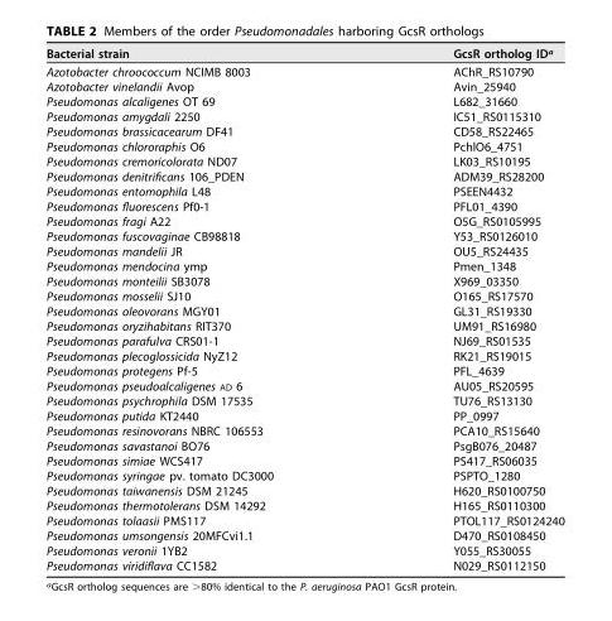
<table><thead><tr><td>Bacterial strain</td><td>GcsR ortholog ID<sup>a</sup></td></tr></thead><tbody><tr><td>Azotobacter chroococcum NCIMB 8003</td><td>AChR_RS10790</td></tr><tr><td>Azotobacter vinelandii Avop</td><td>Avin_25940</td></tr><tr><td>Pseudomonas alcaligenes OT 69</td><td>L682_31660</td></tr><tr><td>Pseudomonas amygdali 2250</td><td>IC51_RS0115310</td></tr><tr><td>Pseudomonas brassicacearum DF41</td><td>CD58_RS22465</td></tr><tr><td>Pseudomonas chlororaphis O6</td><td>PchlO6_4751</td></tr><tr><td>Pseudomonas cremoricolorata ND07</td><td>LK03_RS10195</td></tr><tr><td>Pseudomonas denitrificans 106_PDEN</td><td>ADM39_RS28200</td></tr><tr><td>Pseudomonas entomophila L48</td><td>PSEEN4432</td></tr><tr><td>Pseudomonas fluorescens Pf0-1</td><td>PFL01_4390</td></tr><tr><td>Pseudomonas fragi A22</td><td>O5G_RS0105995</td></tr><tr><td>Pseudomonas fuscovaginae CB98818</td><td>Y53_RS0126010</td></tr><tr><td>Pseudomonas mandelii JR</td><td>OU5_RS24435</td></tr><tr><td>Pseudomonas mendocina ymp</td><td>Pmen_1348</td></tr><tr><td>Pseudomonas monteilii SB3078</td><td>X969_03350</td></tr><tr><td>Pseudomonas mosselii SJ10</td><td>O165_RS17570</td></tr><tr><td>Pseudomonas oleovorans MGY01</td><td>GL31_RS19330</td></tr><tr><td>Pseudomonas oryzihabitans RIT370</td><td>UM91_RS16980</td></tr><tr><td>Pseudomonas parafulva CRS01-1</td><td>NJ69_RS01535</td></tr><tr><td>Pseudomonas plecoglossicida NyZ12</td><td>RK21_RS19015</td></tr><tr><td>Pseudomonas protegens Pf-5</td><td>PFL_4639</td></tr><tr><td>Pseudomonas pseudoalcaligenes AD 6</td><td>AU05_RS20595</td></tr><tr><td>Pseudomonas psychrophila DSM 17535</td><td>TU76_RS13130</td></tr><tr><td>Pseudomonas putida KT2440</td><td>PP_0997</td></tr><tr><td>Pseudomonas resinovorans NBRC 106553</td><td>PCA10_RS15640</td></tr><tr><td>Pseudomonas savastanoi BO76</td><td>PsgB076_20487</td></tr><tr><td>Pseudomonas simiae WCS417</td><td>PS417_RS06035</td></tr><tr><td>Pseudomonas syringae pv. tomato DC3000</td><td>PSPTO_1280</td></tr><tr><td>Pseudomonas taiwanensis DSM 21245</td><td>H620_RS0100750</td></tr><tr><td>Pseudomonas thermotolerans DSM 14292</td><td>H165_RS0110300</td></tr><tr><td>Pseudomonas tolaasii PMS117</td><td>PTOL117_RS0124240</td></tr><tr><td>Pseudomonas umsongensis 20MFCvi1.1</td><td>D470_RS0108450</td></tr><tr><td>Pseudomonas veronii 1YB2</td><td>Y055_RS30055</td></tr><tr><td>Pseudomonas viridiflava CC1582</td><td>N029_RS0112150</td></tr></tbody></table>